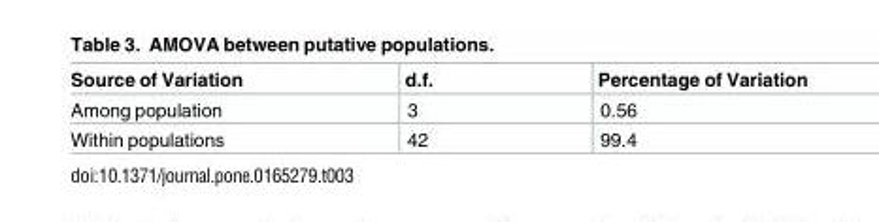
<table><thead><tr><td>Source of Variation</td><td>d.f.</td><td>Percentage of Variation</td></tr></thead><tbody><tr><td>Among population</td><td>3</td><td>0.56</td></tr><tr><td>Within populations</td><td>42</td><td>99.4</td></tr></tbody></table>